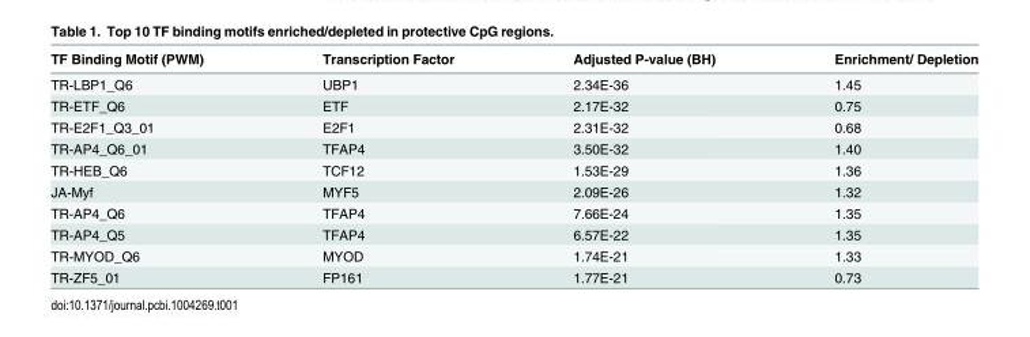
<table><thead><tr><td>TF Binding Motif (PWM)</td><td>Transcription Factor</td><td>Adjusted P-value (BH)</td><td>Enrichment/ Depletion</td></tr></thead><tbody><tr><td>TR-LBP1_Q6</td><td>UBP1</td><td>2.34E-36</td><td>1.45</td></tr><tr><td>TR-ETF_Q6</td><td>ETF</td><td>2.17E-32</td><td>0.75</td></tr><tr><td>TR-E2F1_Q3_01</td><td>E2F1</td><td>2.31E-32</td><td>0.68</td></tr><tr><td>TR-AP4_Q6_01</td><td>TFAP4</td><td>3.50E-32</td><td>1.40</td></tr><tr><td>TR-HEB_Q6</td><td>TCF12</td><td>1.53E-29</td><td>1.36</td></tr><tr><td>JA-Myf</td><td>MYF5</td><td>2.09E-26</td><td>1.32</td></tr><tr><td>TR-AP4_Q6</td><td>TFAP4</td><td>7.66E-24</td><td>1.35</td></tr><tr><td>TR-AP4_Q5</td><td>TFAP4</td><td>6.57E-22</td><td>1.35</td></tr><tr><td>TR-MYOD_Q6</td><td>MYOD</td><td>1.74E-21</td><td>1.33</td></tr><tr><td>TR-ZF5_01</td><td>FP161</td><td>1.77E-21</td><td>0.73</td></tr></tbody></table>